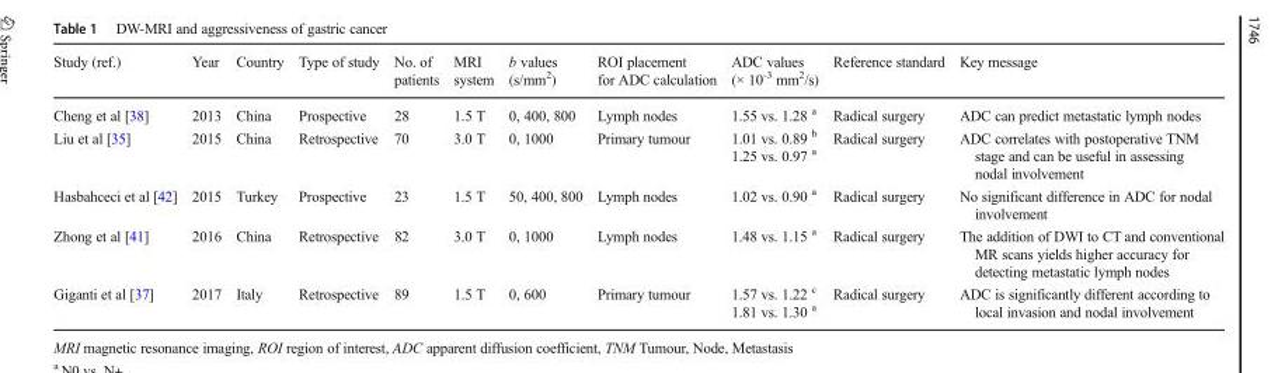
<table><thead><tr><td>Study (ref.)</td><td>Year</td><td>Country</td><td>Type of study</td><td>No. of patients</td><td>MRI system</td><td>b values (s/mm<sup>2</sup>)</td><td>ROI placement for ADC calculation</td><td>ADC values (× 10<sup>-3</sup> mm<sup>2</sup>/s)</td><td>Reference standard</td><td>Key message</td></tr></thead><tbody><tr><td>Cheng et al [38]</td><td>2013</td><td>China</td><td>Prospective</td><td>28</td><td>1.5 T</td><td>0, 400, 800</td><td>Lymph nodes</td><td>1.55 vs. 1.28 <sup>a</sup></td><td>Radical surgery</td><td>ADC can predict metastatic lymph nodes</td></tr><tr><td>Liu et al [35]</td><td>2015</td><td>China</td><td>Retrospective</td><td>70</td><td>3.0 T</td><td>0, 1000</td><td>Primary tumour</td><td>1.01 vs. 0.89 <sup>b</sup> 1.25 vs. 0.97 <sup>a</sup></td><td>Radical surgery</td><td>ADC correlates with postoperative TNM stage and can be useful in assessing nodal involvement</td></tr><tr><td>Hasbahceci et al [42]</td><td>2015</td><td>Turkey</td><td>Prospective</td><td>23</td><td>1.5 T</td><td>50, 400, 800</td><td>Lymph nodes</td><td>1.02 vs. 0.90 <sup>a</sup></td><td>Radical surgery</td><td>No significant difference in ADC for nodal involvement</td></tr><tr><td>Zhong et al [41]</td><td>2016</td><td>China</td><td>Retrospective</td><td>82</td><td>3.0 T</td><td>0, 1000</td><td>Lymph nodes</td><td>1.48 vs. 1.15 <sup>a</sup></td><td>Radical surgery</td><td>The addition of DWI to CT and conventional MR scans yields higher accuracy for detecting metastatic lymph nodes</td></tr><tr><td>Giganti et al [37]</td><td>2017</td><td>Italy</td><td>Retrospective</td><td>89</td><td>1.5 T</td><td>0, 600</td><td>Primary tumour</td><td>1.57 vs. 1.22 <sup>c</sup> 1.81 vs. 1.30 <sup>a</sup></td><td>Radical surgery</td><td>ADC is significantly different according to local invasion and nodal involvement</td></tr></tbody></table>